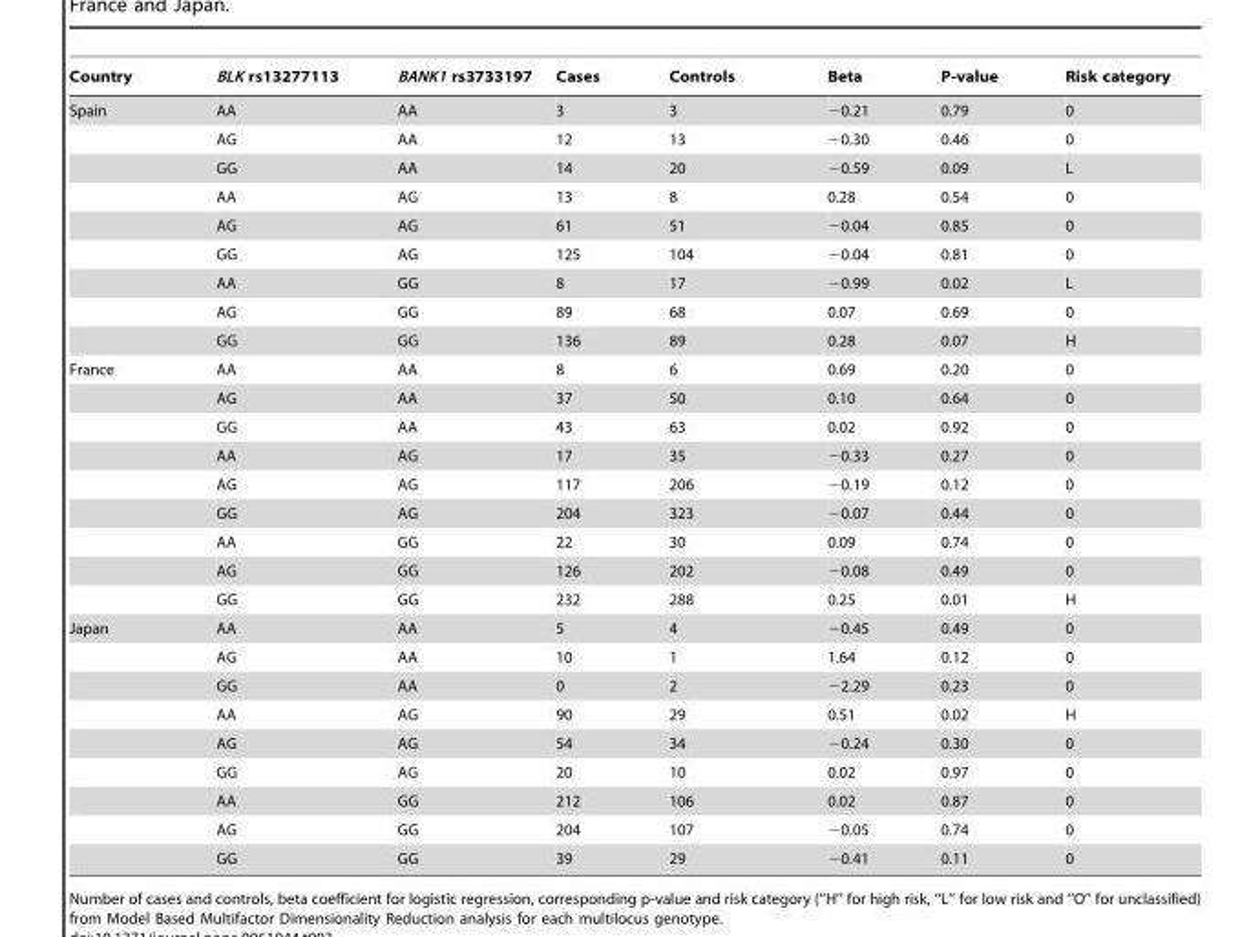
<table><thead><tr><td>Country</td><td>BLK rs13277113</td><td>BANK1 rs3733197</td><td>Cases</td><td>Controls</td><td>Beta</td><td>P-value</td><td>Risk category</td></tr></thead><tbody><tr><td rowspan="9">Spain</td><td>AA</td><td>AA</td><td>3</td><td>3</td><td>−0.21</td><td>0.79</td><td>0</td></tr><tr><td>AG</td><td>AA</td><td>12</td><td>13</td><td>−0.30</td><td>0.46</td><td>0</td></tr><tr><td>GG</td><td>AA</td><td>14</td><td>20</td><td>−0.59</td><td>0.09</td><td>L</td></tr><tr><td>AA</td><td>AG</td><td>13</td><td>8</td><td>0.28</td><td>0.54</td><td>0</td></tr><tr><td>AG</td><td>AG</td><td>61</td><td>51</td><td>−0.04</td><td>0.85</td><td>0</td></tr><tr><td>GG</td><td>AG</td><td>125</td><td>104</td><td>−0.04</td><td>0.81</td><td>0</td></tr><tr><td>AA</td><td>GG</td><td>8</td><td>17</td><td>−0.99</td><td>0.02</td><td>L</td></tr><tr><td>AG</td><td>GG</td><td>89</td><td>68</td><td>0.07</td><td>0.69</td><td>0</td></tr><tr><td>GG</td><td>GG</td><td>136</td><td>89</td><td>0.28</td><td>0.07</td><td>H</td></tr><tr><td rowspan="9">France</td><td>AA</td><td>AA</td><td>8</td><td>6</td><td>0.69</td><td>0.20</td><td>0</td></tr><tr><td>AG</td><td>AA</td><td>37</td><td>50</td><td>0.10</td><td>0.64</td><td>0</td></tr><tr><td>GG</td><td>AA</td><td>43</td><td>63</td><td>0.02</td><td>0.92</td><td>0</td></tr><tr><td>AA</td><td>AG</td><td>17</td><td>35</td><td>−0.33</td><td>0.27</td><td>0</td></tr><tr><td>AG</td><td>AG</td><td>117</td><td>206</td><td>−0.19</td><td>0.12</td><td>0</td></tr><tr><td>GG</td><td>AG</td><td>204</td><td>323</td><td>−0.07</td><td>0.44</td><td>0</td></tr><tr><td>AA</td><td>GG</td><td>22</td><td>30</td><td>0.09</td><td>0.74</td><td>0</td></tr><tr><td>AG</td><td>GG</td><td>126</td><td>202</td><td>−0.08</td><td>0.49</td><td>0</td></tr><tr><td>GG</td><td>GG</td><td>232</td><td>288</td><td>0.25</td><td>0.01</td><td>H</td></tr><tr><td rowspan="9">Japan</td><td>AA</td><td>AA</td><td>5</td><td>4</td><td>−0.45</td><td>0.49</td><td>0</td></tr><tr><td>AG</td><td>AA</td><td>10</td><td>1</td><td>1.64</td><td>0.12</td><td>0</td></tr><tr><td>GG</td><td>AA</td><td>0</td><td>2</td><td>−2.29</td><td>0.23</td><td>0</td></tr><tr><td>AA</td><td>AG</td><td>90</td><td>29</td><td>0.51</td><td>0.02</td><td>H</td></tr><tr><td>AG</td><td>AG</td><td>54</td><td>34</td><td>−0.24</td><td>0.30</td><td>0</td></tr><tr><td>GG</td><td>AG</td><td>20</td><td>10</td><td>0.02</td><td>0.97</td><td>0</td></tr><tr><td>AA</td><td>GG</td><td>212</td><td>106</td><td>0.02</td><td>0.87</td><td>0</td></tr><tr><td>AG</td><td>GG</td><td>204</td><td>107</td><td>−0.05</td><td>0.74</td><td>0</td></tr><tr><td>GG</td><td>GG</td><td>39</td><td>29</td><td>−0.41</td><td>0.11</td><td>0</td></tr></tbody></table>